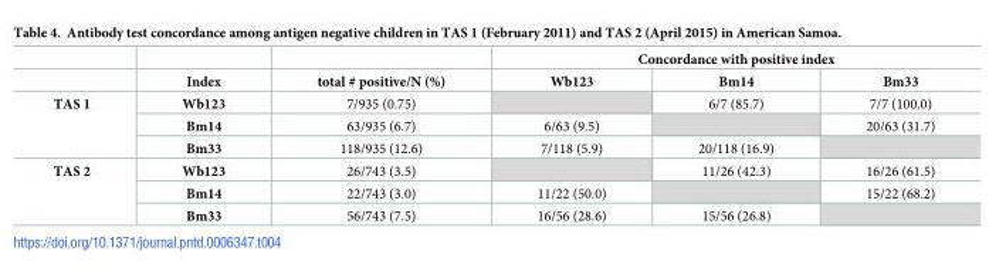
<table><thead><tr><td rowspan="2"></td><td rowspan="2">Index</td><td rowspan="2">total # positive/N (%)</td><td colspan="3">Concordance with positive index</td></tr><tr><td>Wb123</td><td>Bm14</td><td>Bm33</td></tr></thead><tbody><tr><td rowspan="3">TAS 1</td><td>Wb123</td><td>7/935 (0.75)</td><td></td><td>6/7 (85.7)</td><td>7/7 (100.0)</td></tr><tr><td>Bm14</td><td>63/935 (6.7)</td><td>6/63 (9.5)</td><td></td><td>20/63 (31.7)</td></tr><tr><td>Bm33</td><td>118/935 (12.6)</td><td>7/118 (5.9)</td><td>20/118 (16.9)</td><td></td></tr><tr><td rowspan="3">TAS 2</td><td>Wb123</td><td>26/743 (3.5)</td><td></td><td>11/26 (42.3)</td><td>16/26 (61.5)</td></tr><tr><td>Bm14</td><td>22/743 (3.0)</td><td>11/22 (50.0)</td><td></td><td>15/22 (68.2)</td></tr><tr><td>Bm33</td><td>56/743 (7.5)</td><td>16/56 (28.6)</td><td>15/56 (26.8)</td><td></td></tr></tbody></table>